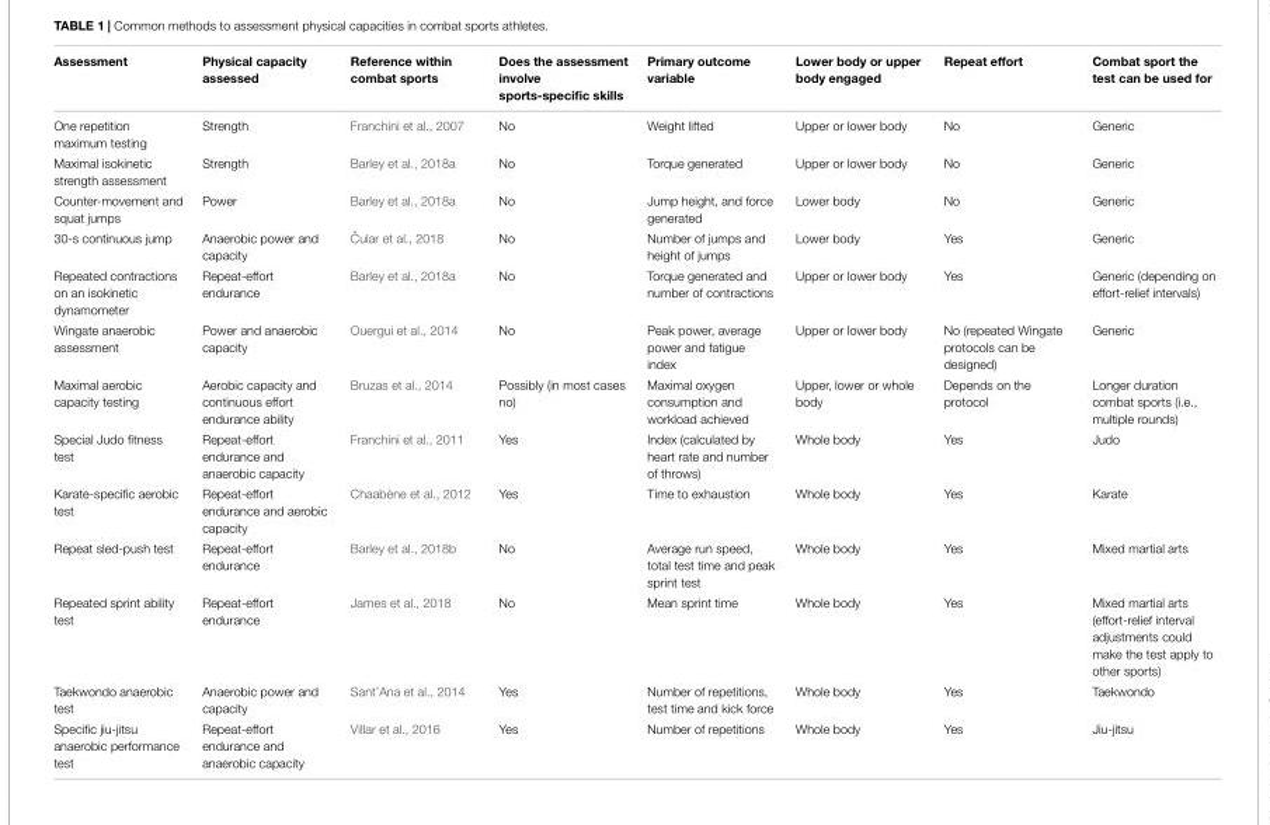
<table><thead><tr><td>Assessment</td><td>Physical capacity assessed</td><td>Reference within combat sports</td><td>Does the assessment involve sports-specific skills</td><td>Primary outcome variable</td><td>Lower body or upper body engaged</td><td>Repeat effort</td><td>Combat sport the test can be used for</td></tr></thead><tbody><tr><td>One repetition maximum testing</td><td>Strength</td><td>Franchini et al., 2007</td><td>No</td><td>Weight lifted</td><td>Upper or lower body</td><td>No</td><td>Generic</td></tr><tr><td>Maximal isokinetic strength assessment</td><td>Strength</td><td>Barley et al., 2018a</td><td>No</td><td>Torque generated</td><td>Upper or lower body</td><td>No</td><td>Generic</td></tr><tr><td>Counter-movement and squat jumps</td><td>Power</td><td>Barley et al., 2018a</td><td>No</td><td>Jump height, and force generated</td><td>Lower body</td><td>No</td><td>Generic</td></tr><tr><td>30-s continuous jump</td><td>Anaerobic power and capacity</td><td>ˇCular et al., 2018</td><td>No</td><td>Number of jumps and height of jumps</td><td>Lower body</td><td>Yes</td><td>Generic</td></tr><tr><td>Repeated contractions on an isokinetic dynamometer</td><td>Repeat-effort endurance</td><td>Barley et al., 2018a</td><td>No</td><td>Torque generated and number of contractions</td><td>Upper or lower body</td><td>Yes</td><td>Generic (depending on effort-relief intervals)</td></tr><tr><td>Wingate anaerobic assessment</td><td>Power and anaerobic capacity</td><td>Ouergui et al., 2014</td><td>No</td><td>Peak power, average power and fatigue index</td><td>Upper or lower body</td><td>No (repeated Wingate protocols can be designed)</td><td>Generic</td></tr><tr><td>Maximal aerobic capacity testing</td><td>Aerobic capacity and continuous effort endurance ability</td><td>Bruzas et al., 2014</td><td>Possibly (in most cases no)</td><td>Maximal oxygen consumption and workload achieved</td><td>Upper, lower or whole body</td><td>Depends on the protocol</td><td>Longer duration combat sports (i.e., multiple rounds)</td></tr><tr><td>Special Judo fitness test</td><td>Repeat-effort endurance and anaerobic capacity</td><td>Franchini et al., 2011</td><td>Yes</td><td>Index (calculated by heart rate and number of throws)</td><td>Whole body</td><td>Yes</td><td>Judo</td></tr><tr><td>Karate-specific aerobic test</td><td>Repeat-effort endurance and aerobic capacity</td><td>Chaabène et al., 2012</td><td>Yes</td><td>Time to exhaustion</td><td>Whole body</td><td>Yes</td><td>Karate</td></tr><tr><td>Repeat sled-push test</td><td>Repeat-effort endurance</td><td>Barley et al., 2018b</td><td>No</td><td>Average run speed, total test time and peak sprint test</td><td>Whole body</td><td>Yes</td><td>Mixed martial arts</td></tr><tr><td>Repeated sprint ability test</td><td>Repeat-effort endurance</td><td>James et al., 2018</td><td>No</td><td>Mean sprint time</td><td>Whole body</td><td>Yes</td><td>Mixed martial arts (effort-relief interval adjustments could make the test apply to other sports)</td></tr><tr><td>Taekwondo anaerobic test</td><td>Anaerobic power and capacity</td><td>Sant’Ana et al., 2014</td><td>Yes</td><td>Number of repetitions, test time and kick force</td><td>Whole body</td><td>Yes</td><td>Taekwondo</td></tr><tr><td>Specific jiu-jitsu anaerobic performance test</td><td>Repeat-effort endurance and anaerobic capacity</td><td>Villar et al., 2016</td><td>Yes</td><td>Number of repetitions</td><td>Whole body</td><td>Yes</td><td>Jiu-jitsu</td></tr></tbody></table>